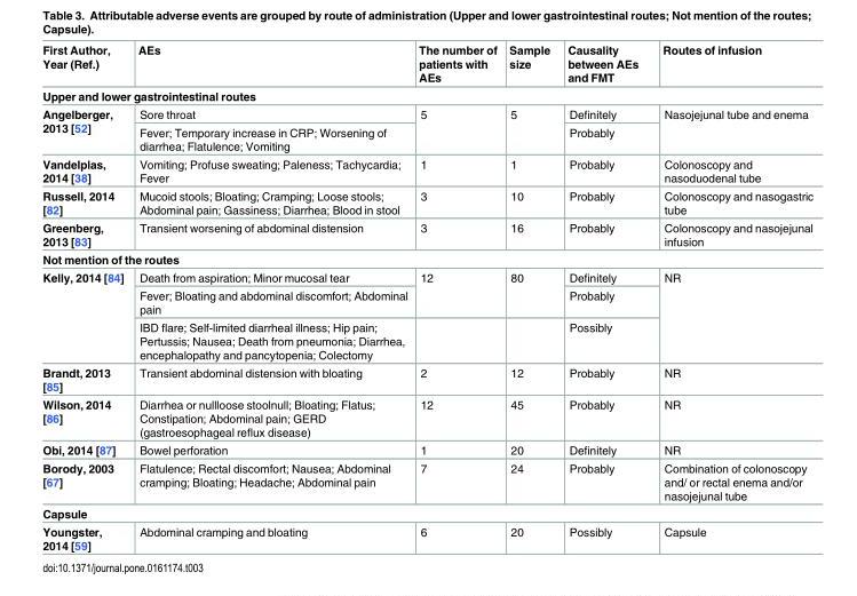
<table><thead><tr><td>First Author, Year (Ref.)</td><td>AEs</td><td>The number of patients with AEs</td><td>Sample size</td><td>Causality between AEs and FMT</td><td>Routes of infusion</td></tr></thead><tbody><tr><td colspan="6">Upper and lower gastrointestinal routes</td></tr><tr><td rowspan="2">Angelberger, 2013 [52]</td><td>Sore throat</td><td rowspan="2">5</td><td rowspan="2">5</td><td>Definitely</td><td rowspan="2">Nasojejunal tube and enema</td></tr><tr><td>Fever; Temporary increase in CRP; Worsening of diarrhea; Flatulence; Vomiting</td><td>Probably</td></tr><tr><td>Vandelplas, 2014 [38]</td><td>Vomiting; Profuse sweating; Paleness; Tachycardia; Fever</td><td>1</td><td>1</td><td>Probably</td><td>Colonoscopy and nasoduodenal tube</td></tr><tr><td>Russell, 2014 [82]</td><td>Mucoid stools; Bloating; Cramping; Loose stools; Abdominal pain; Gassiness; Diarrhea; Blood in stool</td><td>3</td><td>10</td><td>Probably</td><td>Colonoscopy and nasogastric tube</td></tr><tr><td>Greenberg, 2013 [83]</td><td>Transient worsening of abdominal distension</td><td>3</td><td>16</td><td>Probably</td><td>Colonoscopy and nasojejunal infusion</td></tr><tr><td colspan="6">Not mention of the routes</td></tr><tr><td rowspan="3">Kelly, 2014 [84]</td><td>Death from aspiration; Minor mucosal tear</td><td rowspan="2">12</td><td rowspan="2">80</td><td>Definitely</td><td rowspan="3">NR</td></tr><tr><td>Fever; Bloating and abdominal discomfort; Abdominal pain</td><td>Probably</td></tr><tr><td>IBD flare; Self-limited diarrheal illness; Hip pain; Pertussis; Nausea; Death from pneumonia; Diarrhea, encephalopathy and pancytopenia; Colectomy</td><td></td><td></td><td>Possibly</td></tr><tr><td>Brandt, 2013 [85]</td><td>Transient abdominal distension with bloating</td><td>2</td><td>12</td><td>Probably</td><td>NR</td></tr><tr><td>Wilson, 2014 [86]</td><td>Diarrhea or nullloose stoolnull; Bloating; Flatus; Constipation; Abdominal pain; GERD (gastroesophageal reflux disease)</td><td>12</td><td>45</td><td>Probably</td><td>NR</td></tr><tr><td>Obi, 2014 [87]</td><td>Bowel perforation</td><td>1</td><td>20</td><td>Definitely</td><td>NR</td></tr><tr><td>Borody, 2003 [67]</td><td>Flatulence; Rectal discomfort; Nausea; Abdominal cramping; Bloating; Headache; Abdominal pain</td><td>7</td><td>24</td><td>Probably</td><td>Combination of colonoscopy and/ or rectal enema and/or nasojejunal tube</td></tr><tr><td colspan="6">Capsule</td></tr><tr><td>Youngster, 2014 [59]</td><td>Abdominal cramping and bloating</td><td>6</td><td>20</td><td>Possibly</td><td>Capsule</td></tr></tbody></table>